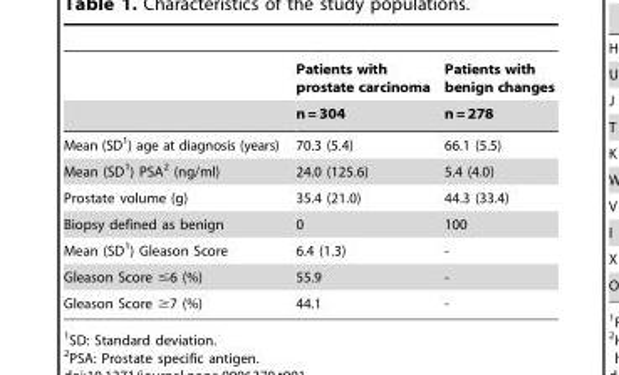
<table><thead><tr><td rowspan="2"></td><td rowspan="2">Patients with prostate carcinoma n = 304</td><td rowspan="2">Patients with benign changes n = 278</td></tr><tr></tr></thead><tbody><tr><td>Mean (SD<sup>1</sup>) age at diagnosis (years)</td><td>70.3 (5.4)</td><td>66.1 (5.5)</td></tr><tr><td>Mean (SD<sup>1</sup>) PSA<sup>2</sup> (ng/ml)</td><td>24.0 (125.6)</td><td>5.4 (4.0)</td></tr><tr><td>Prostate volume (g)</td><td>35.4 (21.0)</td><td>44.3 (33.4)</td></tr><tr><td>Biopsy defined as benign</td><td>0</td><td>100</td></tr><tr><td>Mean (SD<sup>1</sup>) Gleason Score</td><td>6.4 (1.3)</td><td>-</td></tr><tr><td>Gleason Score ≤6 (%)</td><td>55.9</td><td>-</td></tr><tr><td>Gleason Score ≥7 (%)</td><td>44.1</td><td>-</td></tr></tbody></table>